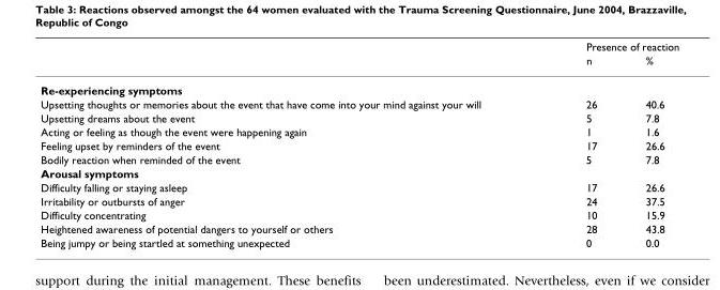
<table><thead><tr><td rowspan="2"></td><td colspan="2">Presence of reaction</td></tr><tr><td>n</td><td>%</td></tr></thead><tbody><tr><td colspan="3">Re-experiencing symptoms</td></tr><tr><td>Upsetting thoughts or memories about the event that have come into your mind against your will</td><td>26</td><td>40.6</td></tr><tr><td>Upsetting dreams about the event</td><td>5</td><td>7.8</td></tr><tr><td>Acting or feeling as though the event were happening again</td><td>1</td><td>1.6</td></tr><tr><td>Feeling upset by reminders of the event</td><td>17</td><td>26.6</td></tr><tr><td>Bodily reaction when reminded of the event</td><td>5</td><td>7.8</td></tr><tr><td colspan="3">Arousal symptoms</td></tr><tr><td>Difficulty falling or staying asleep</td><td>17</td><td>26.6</td></tr><tr><td>Irritability or outbursts of anger</td><td>24</td><td>37.5</td></tr><tr><td>Difficulty concentrating</td><td>10</td><td>15.9</td></tr><tr><td>Heightened awareness of potential dangers to yourself or others</td><td>28</td><td>43.8</td></tr><tr><td>Being jumpy or being startled at something unexpected</td><td>0</td><td>0.0</td></tr></tbody></table>